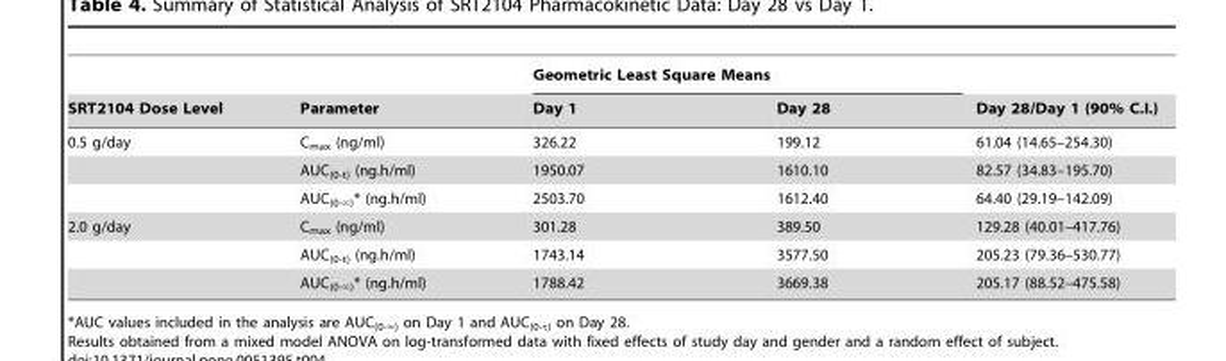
<table><thead><tr><td rowspan="2">SRT2104 Dose Level</td><td rowspan="2">Parameter</td><td colspan="2">Geometric Least Square Means</td><td rowspan="2">Day 28/Day 1 (90% C.I.)</td></tr><tr><td>Day 1</td><td>Day 28</td></tr></thead><tbody><tr><td rowspan="3">0.5 g/day</td><td>C<sub>max</sub> (ng/ml)</td><td>326.22</td><td>199.12</td><td>61.04 (14.65–254.30)</td></tr><tr><td>AUC<sub>(0-t)</sub> (ng.h/ml)</td><td>1950.07</td><td>1610.10</td><td>82.57 (34.83–195.70)</td></tr><tr><td>AUC(0-‘)* (ng.h/ml)</td><td>2503.70</td><td>1612.40</td><td>64.40 (29.19–142.09)</td></tr><tr><td rowspan="3">2.0 g/day</td><td>C<sub>max</sub> (ng/ml)</td><td>301.28</td><td>389.50</td><td>129.28 (40.01–417.76)</td></tr><tr><td>AUC<sub>(0-t)</sub> (ng.h/ml)</td><td>1743.14</td><td>3577.50</td><td>205.23 (79.36–530.77)</td></tr><tr><td>AUC(0-‘)* (ng.h/ml)</td><td>1788.42</td><td>3669.38</td><td>205.17 (88.52–475.58)</td></tr></tbody></table>